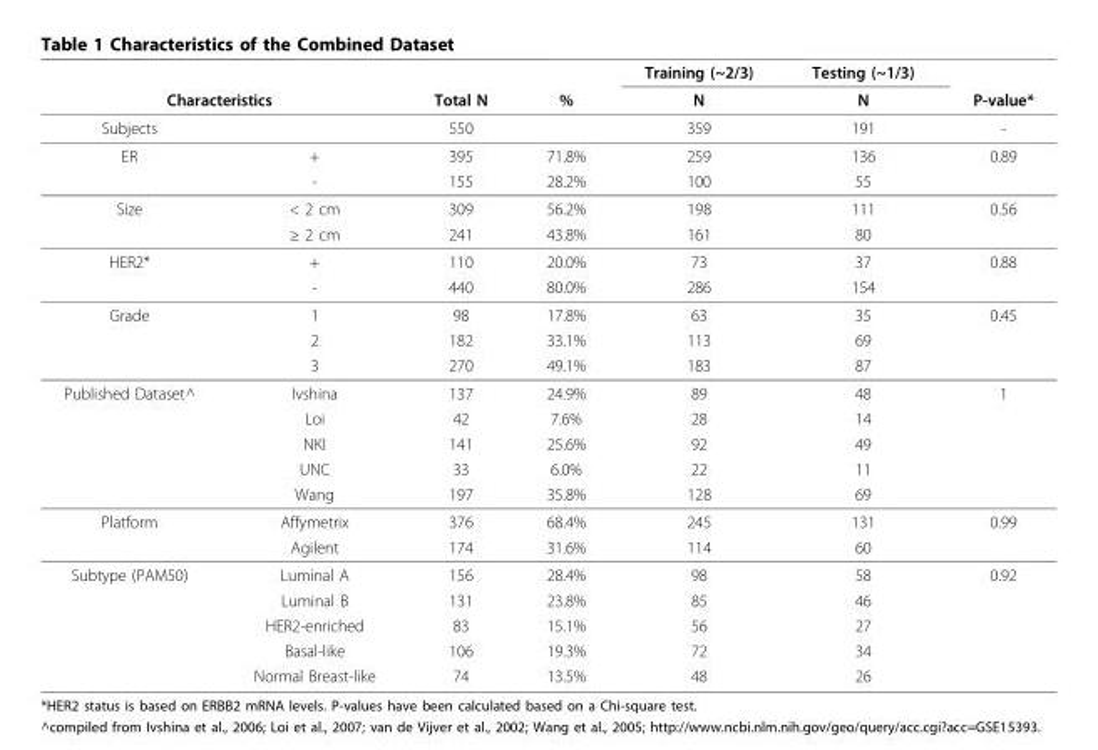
<table><thead><tr><td></td><td></td><td rowspan="2">Total N</td><td rowspan="2">%</td><td rowspan="2">Training (~2/3) N</td><td rowspan="2">Testing (~1/3) N</td><td rowspan="2">P-value*</td></tr><tr><td colspan="2">Characteristics</td></tr></thead><tbody><tr><td>Subjects</td><td></td><td>550</td><td></td><td>359</td><td>191</td><td>-</td></tr><tr><td rowspan="2">ER</td><td>+</td><td>395</td><td>71.8%</td><td>259</td><td>136</td><td>0.89</td></tr><tr><td>-</td><td>155</td><td>28.2%</td><td>100</td><td>55</td><td></td></tr><tr><td rowspan="2">Size</td><td>&lt; 2 cm</td><td>309</td><td>56.2%</td><td>198</td><td>111</td><td>0.56</td></tr><tr><td>≥ 2 cm</td><td>241</td><td>43.8%</td><td>161</td><td>80</td><td></td></tr><tr><td rowspan="2">HER2*</td><td>+</td><td>110</td><td>20.0%</td><td>73</td><td>37</td><td>0.88</td></tr><tr><td>-</td><td>440</td><td>80.0%</td><td>286</td><td>154</td><td></td></tr><tr><td rowspan="3">Grade</td><td>1</td><td>98</td><td>17.8%</td><td>63</td><td>35</td><td>0.45</td></tr><tr><td>2</td><td>182</td><td>33.1%</td><td>113</td><td>69</td><td></td></tr><tr><td>3</td><td>270</td><td>49.1%</td><td>183</td><td>87</td><td></td></tr><tr><td rowspan="5">Published Dataset^</td><td>Ivshina</td><td>137</td><td>24.9%</td><td>89</td><td>48</td><td>1</td></tr><tr><td>Loi</td><td>42</td><td>7.6%</td><td>28</td><td>14</td><td></td></tr><tr><td>NKI</td><td>141</td><td>25.6%</td><td>92</td><td>49</td><td></td></tr><tr><td>UNC</td><td>33</td><td>6.0%</td><td>22</td><td>11</td><td></td></tr><tr><td>Wang</td><td>197</td><td>35.8%</td><td>128</td><td>69</td><td></td></tr><tr><td rowspan="2">Platform</td><td>Affymetrix</td><td>376</td><td>68.4%</td><td>245</td><td>131</td><td>0.99</td></tr><tr><td>Agilent</td><td>174</td><td>31.6%</td><td>114</td><td>60</td><td></td></tr><tr><td rowspan="5">Subtype (PAM50)</td><td>Luminal A</td><td>156</td><td>28.4%</td><td>98</td><td>58</td><td>0.92</td></tr><tr><td>Luminal B</td><td>131</td><td>23.8%</td><td>85</td><td>46</td><td></td></tr><tr><td>HER2-enriched</td><td>83</td><td>15.1%</td><td>56</td><td>27</td><td></td></tr><tr><td>Basal-like</td><td>106</td><td>19.3%</td><td>72</td><td>34</td><td></td></tr><tr><td>Normal Breast-like</td><td>74</td><td>13.5%</td><td>48</td><td>26</td><td></td></tr></tbody></table>